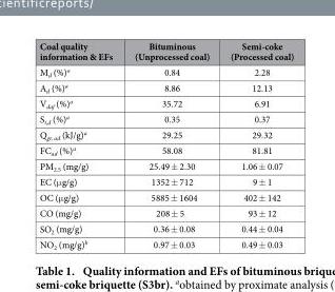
<table><thead><tr><td>Coal quality information &amp; EFs</td><td>Bituminous (Unprocessed coal)</td><td>Semi-coke (Processed coal)</td></tr></thead><tbody><tr><td>M<sub>d</sub> (%)<sup>a</sup></td><td>0.84</td><td>2.28</td></tr><tr><td>A<sub>d</sub> (%)<sup>a</sup></td><td>8.86</td><td>12.13</td></tr><tr><td>V<sub>daf</sub> (%)<sup>a</sup></td><td>35.72</td><td>6.91</td></tr><tr><td>S<sub>t,d</sub> (%)<sup>a</sup></td><td>0.35</td><td>0.37</td></tr><tr><td>Q<sub>gr, ad</sub> (kJ/g)<sup>a</sup></td><td>29.25</td><td>29.32</td></tr><tr><td>FC<sub>ad</sub> (%)<sup>a</sup></td><td>58.08</td><td>81.81</td></tr><tr><td>PM<sub>2.5</sub> (mg/g)</td><td>25.49 ± 2.30</td><td>1.06 ± 0.07</td></tr><tr><td>EC (μ g/g)</td><td>1352 ± 712</td><td>9 ± 1</td></tr><tr><td>OC (μ g/g)</td><td>5885 ± 1604</td><td>402 ± 142</td></tr><tr><td>CO (mg/g)</td><td>208 ± 5</td><td>93 ± 12</td></tr><tr><td>SO<sub>2</sub> (mg/g)</td><td>0.36 ± 0.08</td><td>0.44 ± 0.04</td></tr><tr><td>NO<sub>2</sub> (mg/g)<sup>b</sup></td><td>0.97 ± 0.03</td><td>0.49 ± 0.03</td></tr></tbody></table>